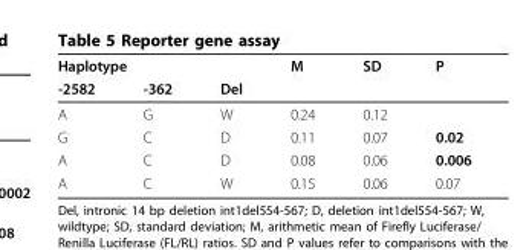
<table><thead><tr><td colspan="2">Haplotype</td><td rowspan="2">Del</td><td rowspan="2">M</td><td rowspan="2">SD</td><td rowspan="2">P</td></tr><tr><td>-2582</td><td>-362</td></tr></thead><tbody><tr><td>A</td><td>G</td><td>W</td><td>0.24</td><td>0.12</td><td></td></tr><tr><td>G</td><td>C</td><td>D</td><td>0.11</td><td>0.07</td><td>0.02</td></tr><tr><td>A</td><td>C</td><td>D</td><td>0.08</td><td>0.06</td><td>0.006</td></tr><tr><td>A</td><td>C</td><td>W</td><td>0.15</td><td>0.06</td><td>0.07</td></tr></tbody></table>